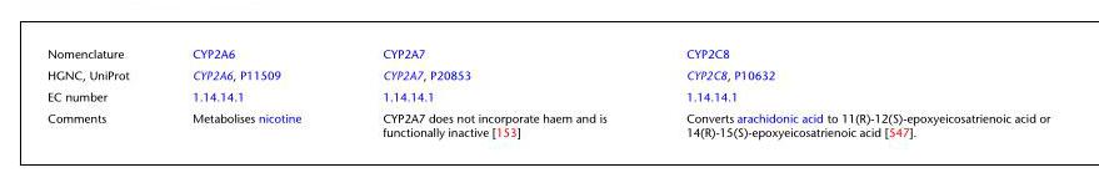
<table><tbody><tr><td>Nomenclature</td><td>CYP2A6</td><td>CYP2A7</td><td>CYP2C8</td></tr><tr><td>HGNC, UniProt</td><td>CYP2A6, P11509</td><td>CYP2A7, P20853</td><td>CYP2C8, P10632</td></tr><tr><td>EC number</td><td>1.14.14.1</td><td>1.14.14.1</td><td>1.14.14.1</td></tr><tr><td>Comments</td><td>Metabolises nicotine</td><td>CYP2A7 does not incorporate haem and is functionally inactive [153]</td><td>Converts arachidonic acid to 11(R)-12(S)-epoxyeicosatrienoic acid or 14(R)-15(S)-epoxyeicosatrienoic acid [547].</td></tr></tbody></table>